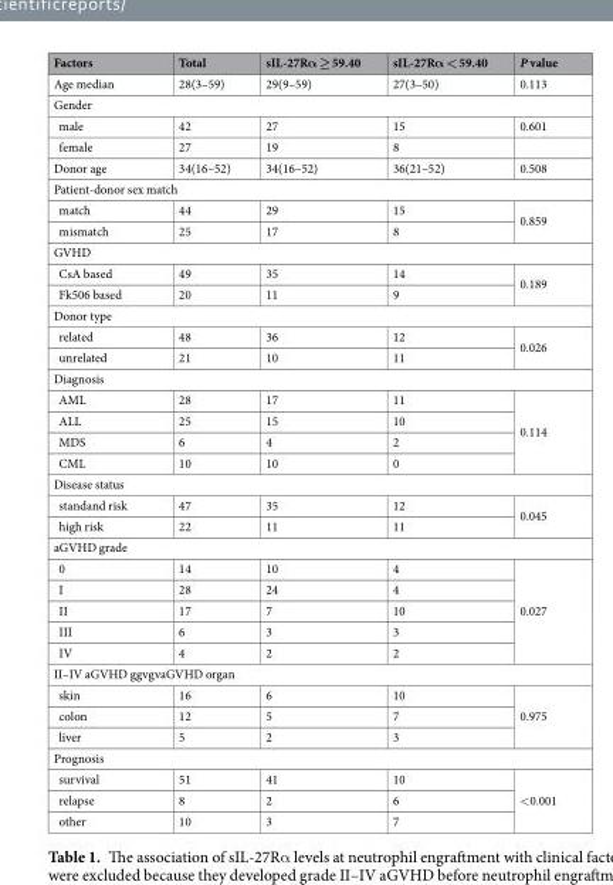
<table><thead><tr><td>Factors</td><td>Total</td><td>sIL-27Rα ≥ 59.40</td><td>sIL-27Rα &lt; 59.40</td><td>P value</td></tr></thead><tbody><tr><td>Age median</td><td>28(3–59)</td><td>29(9–59)</td><td>27(3–50)</td><td>0.113</td></tr><tr><td colspan="5">Gender</td></tr><tr><td>male</td><td>42</td><td>27</td><td>15</td><td>0.601</td></tr><tr><td>female</td><td>27</td><td>19</td><td>8</td><td></td></tr><tr><td>Donor age</td><td>34(16–52)</td><td>34(16–52)</td><td>36(21–52)</td><td>0.508</td></tr><tr><td colspan="5">Patient-donor sex match</td></tr><tr><td>match</td><td>44</td><td>29</td><td>15</td><td rowspan="2">0.859</td></tr><tr><td>mismatch</td><td>25</td><td>17</td><td>8</td></tr><tr><td colspan="5">GVHD</td></tr><tr><td>CsA based</td><td>49</td><td>35</td><td>14</td><td rowspan="2">0.189</td></tr><tr><td>Fk506 based</td><td>20</td><td>11</td><td>9</td></tr><tr><td colspan="5">Donor type</td></tr><tr><td>related</td><td>48</td><td>36</td><td>12</td><td rowspan="2">0.026</td></tr><tr><td>unrelated</td><td>21</td><td>10</td><td>11</td></tr><tr><td colspan="5">Diagnosis</td></tr><tr><td>AML</td><td>28</td><td>17</td><td>11</td><td rowspan="4">0.114</td></tr><tr><td>ALL</td><td>25</td><td>15</td><td>10</td></tr><tr><td>MDS</td><td>6</td><td>4</td><td>2</td></tr><tr><td>CML</td><td>10</td><td>10</td><td>0</td></tr><tr><td colspan="5">Disease status</td></tr><tr><td>standand risk</td><td>47</td><td>35</td><td>12</td><td rowspan="2">0.045</td></tr><tr><td>high risk</td><td>22</td><td>11</td><td>11</td></tr><tr><td colspan="5">aGVHD grade</td></tr><tr><td>0</td><td>14</td><td>10</td><td>4</td><td rowspan="5">0.027</td></tr><tr><td>I</td><td>28</td><td>24</td><td>4</td></tr><tr><td>II</td><td>17</td><td>7</td><td>10</td></tr><tr><td>III</td><td>6</td><td>3</td><td>3</td></tr><tr><td>IV</td><td>4</td><td>2</td><td>2</td></tr><tr><td colspan="5">II–IV aGVHD ggvgvaGVHD organ</td></tr><tr><td>skin</td><td>16</td><td>6</td><td>10</td><td rowspan="3">0.975</td></tr><tr><td>colon</td><td>12</td><td>5</td><td>7</td></tr><tr><td>liver</td><td>5</td><td>2</td><td>3</td></tr><tr><td colspan="5">Prognosis</td></tr><tr><td>survival</td><td>51</td><td>41</td><td>10</td><td rowspan="3">&lt;0.001</td></tr><tr><td>relapse</td><td>8</td><td>2</td><td>6</td></tr><tr><td>other</td><td>10</td><td>3</td><td>7</td></tr></tbody></table>